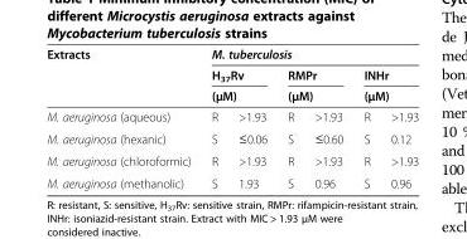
<table><thead><tr><td rowspan="4">Extracts M. aeruginosa (aqueous)</td><td colspan="6">M. tuberculosis</td></tr><tr><td rowspan="2" colspan="2">H<sub>37</sub>Rv (μM)</td><td rowspan="2" colspan="2">RMPr (μM)</td><td rowspan="2" colspan="2">INHr (μM)</td></tr><tr></tr><tr><td>R</td><td>&gt;1.93</td><td>R</td><td>&gt;1.93</td><td>R</td><td>&gt;1.93</td></tr></thead><tbody><tr><td>M. aeruginosa (hexanic)</td><td>S</td><td>≤0.06</td><td>S</td><td>≤0.60</td><td>S</td><td>0.12</td></tr><tr><td>M. aeruginosa (chloroformic)</td><td>R</td><td>&gt;1.93</td><td>R</td><td>&gt;1.93</td><td>R</td><td>&gt;1.93</td></tr><tr><td>M. aeruginosa (methanolic)</td><td>S</td><td>1.93</td><td>S</td><td>0.96</td><td>S</td><td>0.96</td></tr></tbody></table>